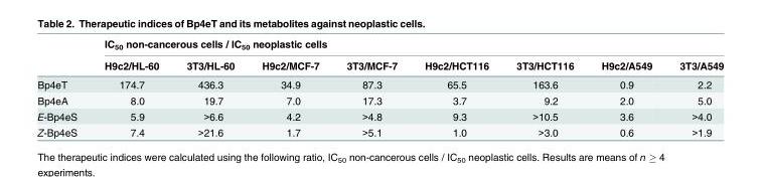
<table><thead><tr><td rowspan="2"></td><td colspan="8">IC<sub>50</sub> non-cancerous cells / IC<sub>50</sub> neoplastic cells</td></tr><tr><td>H9c2/HL-60</td><td>3T3/HL-60</td><td>H9c2/MCF-7</td><td>3T3/MCF-7</td><td>H9c2/HCT116</td><td>3T3/HCT116</td><td>H9c2/A549</td><td>3T3/A549</td></tr></thead><tbody><tr><td>Bp4eT</td><td>174.7</td><td>436.3</td><td>34.9</td><td>87.3</td><td>65.5</td><td>163.6</td><td>0.9</td><td>2.2</td></tr><tr><td>Bp4eA</td><td>8.0</td><td>19.7</td><td>7.0</td><td>17.3</td><td>3.7</td><td>9.2</td><td>2.0</td><td>5.0</td></tr><tr><td>E-Bp4eS</td><td>5.9</td><td>&gt;6.6</td><td>4.2</td><td>&gt;4.8</td><td>9.3</td><td>&gt;10.5</td><td>3.6</td><td>&gt;4.0</td></tr><tr><td>Z-Bp4eS</td><td>7.4</td><td>&gt;21.6</td><td>1.7</td><td>&gt;5.1</td><td>1.0</td><td>&gt;3.0</td><td>0.6</td><td>&gt;1.9</td></tr></tbody></table>